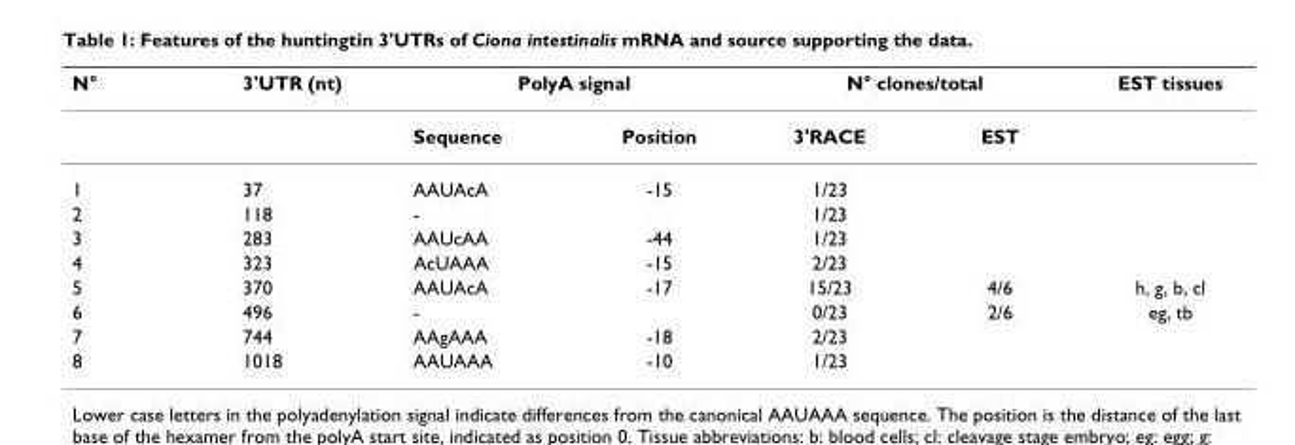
<table><thead><tr><td rowspan="2">N°</td><td rowspan="2">3&#x27;UTR (nt)</td><td colspan="2">PolyA signal</td><td colspan="2">N° clones/total</td><td rowspan="2">EST tissues</td></tr><tr><td>Sequence</td><td>Position</td><td>3&#x27;RACE</td><td>EST</td></tr></thead><tbody><tr><td>1</td><td>37</td><td>AAUAcA</td><td>-15</td><td>1/23</td><td></td><td></td></tr><tr><td>2</td><td>118</td><td>-</td><td></td><td>1/23</td><td></td><td></td></tr><tr><td>3</td><td>283</td><td>AAUcAA</td><td>-44</td><td>1/23</td><td></td><td></td></tr><tr><td>4</td><td>323</td><td>AcUAAA</td><td>-15</td><td>2/23</td><td></td><td></td></tr><tr><td>5</td><td>370</td><td>AAUAcA</td><td>-17</td><td>15/23</td><td>4/6</td><td>h, g, b, cl</td></tr><tr><td>6</td><td>496</td><td>-</td><td></td><td>0/23</td><td>2/6</td><td>eg, tb</td></tr><tr><td>7</td><td>744</td><td>AAgAAA</td><td>-18</td><td>2/23</td><td></td><td></td></tr><tr><td>8</td><td>1018</td><td>AAUAAA</td><td>-10</td><td>1/23</td><td></td><td></td></tr></tbody></table>